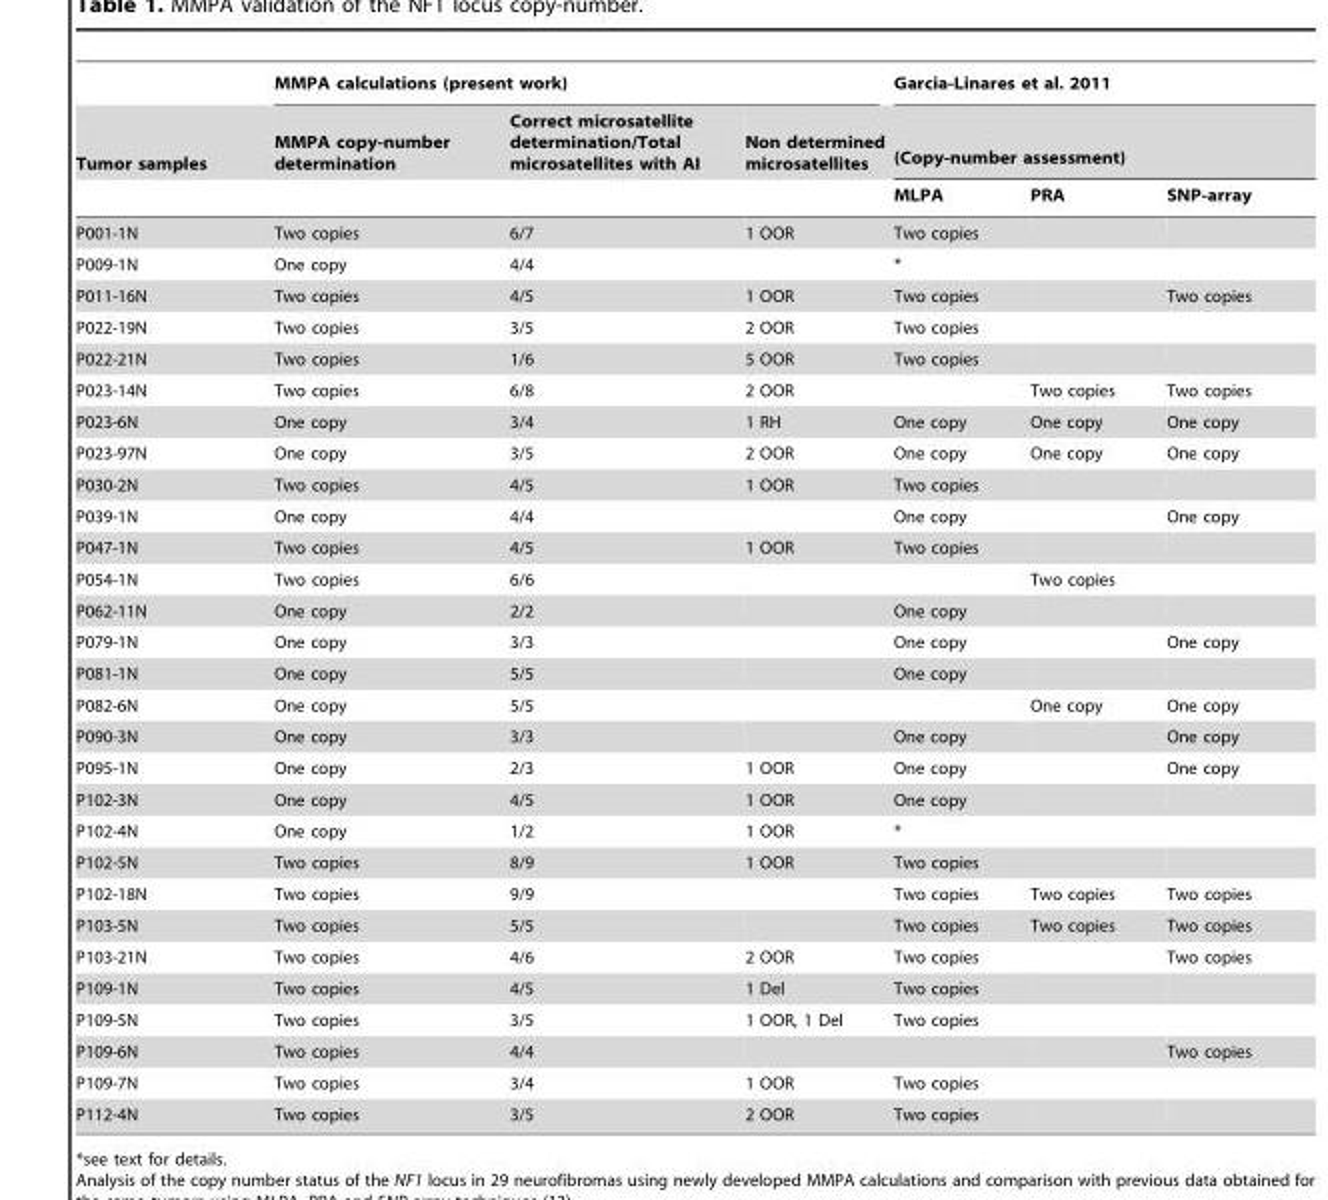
<table><thead><tr><td rowspan="3">Tumor samples</td><td colspan="3">MMPA calculations (present work)</td><td rowspan="2" colspan="3">Garcia-Linares et al. 2011 (Copy-number assessment)</td></tr><tr><td rowspan="2">MMPA copy-number determination</td><td rowspan="2">Correct microsatellite determination/Total microsatellites with AI</td><td rowspan="2">Non determined microsatellites</td></tr><tr><td>MLPA</td><td>PRA</td><td>SNP-array</td></tr></thead><tbody><tr><td>P001-1N</td><td>Two copies</td><td>6/7</td><td>1 OOR</td><td>Two copies</td><td></td><td></td></tr><tr><td>P009-1N</td><td>One copy</td><td>4/4</td><td></td><td>*</td><td></td><td></td></tr><tr><td>P011-16N</td><td>Two copies</td><td>4/5</td><td>1 OOR</td><td>Two copies</td><td></td><td>Two copies</td></tr><tr><td>P022-19N</td><td>Two copies</td><td>3/5</td><td>2 OOR</td><td>Two copies</td><td></td><td></td></tr><tr><td>P022-21N</td><td>Two copies</td><td>1/6</td><td>5 OOR</td><td>Two copies</td><td></td><td></td></tr><tr><td>P023-14N</td><td>Two copies</td><td>6/8</td><td>2 OOR</td><td></td><td>Two copies</td><td>Two copies</td></tr><tr><td>P023-6N</td><td>One copy</td><td>3/4</td><td>1 RH</td><td>One copy</td><td>One copy</td><td>One copy</td></tr><tr><td>P023-97N</td><td>One copy</td><td>3/5</td><td>2 OOR</td><td>One copy</td><td>One copy</td><td>One copy</td></tr><tr><td>P030-2N</td><td>Two copies</td><td>4/5</td><td>1 OOR</td><td>Two copies</td><td></td><td></td></tr><tr><td>P039-1N</td><td>One copy</td><td>4/4</td><td></td><td>One copy</td><td></td><td>One copy</td></tr><tr><td>P047-1N</td><td>Two copies</td><td>4/5</td><td>1 OOR</td><td>Two copies</td><td></td><td></td></tr><tr><td>P054-1N</td><td>Two copies</td><td>6/6</td><td></td><td></td><td>Two copies</td><td></td></tr><tr><td>P062-11N</td><td>One copy</td><td>2/2</td><td></td><td>One copy</td><td></td><td></td></tr><tr><td>P079-1N</td><td>One copy</td><td>3/3</td><td></td><td>One copy</td><td></td><td>One copy</td></tr><tr><td>P081-1N</td><td>One copy</td><td>5/5</td><td></td><td>One copy</td><td></td><td></td></tr><tr><td>P082-6N</td><td>One copy</td><td>5/5</td><td></td><td></td><td>One copy</td><td>One copy</td></tr><tr><td>P090-3N</td><td>One copy</td><td>3/3</td><td></td><td>One copy</td><td></td><td>One copy</td></tr><tr><td>P095-1N</td><td>One copy</td><td>2/3</td><td>1 OOR</td><td>One copy</td><td></td><td>One copy</td></tr><tr><td>P102-3N</td><td>One copy</td><td>4/5</td><td>1 OOR</td><td>One copy</td><td></td><td></td></tr><tr><td>P102-4N</td><td>One copy</td><td>1/2</td><td>1 OOR</td><td>*</td><td></td><td></td></tr><tr><td>P102-5N</td><td>Two copies</td><td>8/9</td><td>1 OOR</td><td>Two copies</td><td></td><td></td></tr><tr><td>P102-18N</td><td>Two copies</td><td>9/9</td><td></td><td>Two copies</td><td>Two copies</td><td>Two copies</td></tr><tr><td>P103-5N</td><td>Two copies</td><td>5/5</td><td></td><td>Two copies</td><td>Two copies</td><td>Two copies</td></tr><tr><td>P103-21N</td><td>Two copies</td><td>4/6</td><td>2 OOR</td><td>Two copies</td><td></td><td>Two copies</td></tr><tr><td>P109-1N</td><td>Two copies</td><td>4/5</td><td>1 Del</td><td>Two copies</td><td></td><td></td></tr><tr><td>P109-5N</td><td>Two copies</td><td>3/5</td><td>1 OOR, 1 Del</td><td>Two copies</td><td></td><td></td></tr><tr><td>P109-6N</td><td>Two copies</td><td>4/4</td><td></td><td></td><td></td><td>Two copies</td></tr><tr><td>P109-7N</td><td>Two copies</td><td>3/4</td><td>1 OOR</td><td>Two copies</td><td></td><td></td></tr><tr><td>P112-4N</td><td>Two copies</td><td>3/5</td><td>2 OOR</td><td>Two copies</td><td></td><td></td></tr></tbody></table>